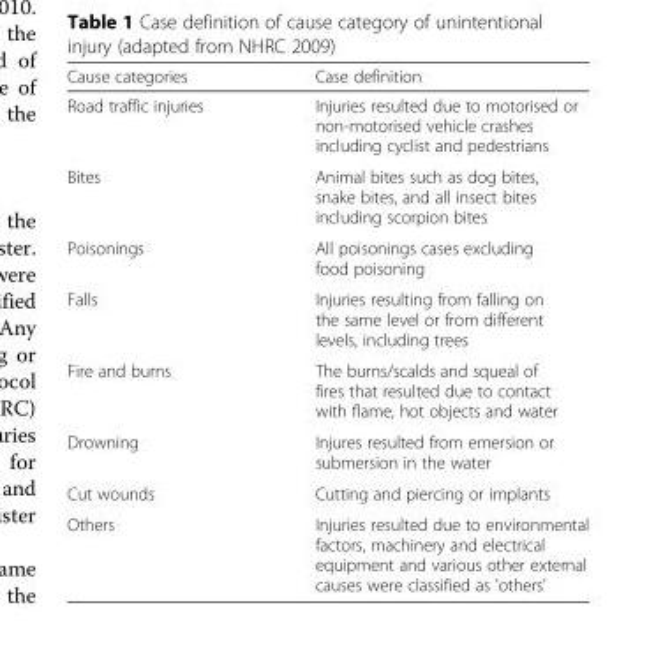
<table><thead><tr><td>Cause categories</td><td>Case definition</td></tr></thead><tbody><tr><td>Road traffic injuries</td><td>Injuries resulted due to motorised or non-motorised vehicle crashes including cyclist and pedestrians</td></tr><tr><td>Bites</td><td>Animal bites such as dog bites, snake bites, and all insect bites including scorpion bites</td></tr><tr><td>Poisonings</td><td>All poisonings cases excluding food poisoning</td></tr><tr><td>Falls</td><td>Injuries resulting from falling on the same level or from different levels, including trees</td></tr><tr><td>Fire and burns</td><td>The burns/scalds and squeal of fires that resulted due to contact with flame, hot objects and water</td></tr><tr><td>Drowning</td><td>Injures resulted from emersion or submersion in the water</td></tr><tr><td>Cut wounds</td><td>Cutting and piercing or implants</td></tr><tr><td>Others</td><td>Injuries resulted due to environmental factors, machinery and electrical equipment and various other external causes were classified as &#x27;others&#x27;</td></tr></tbody></table>